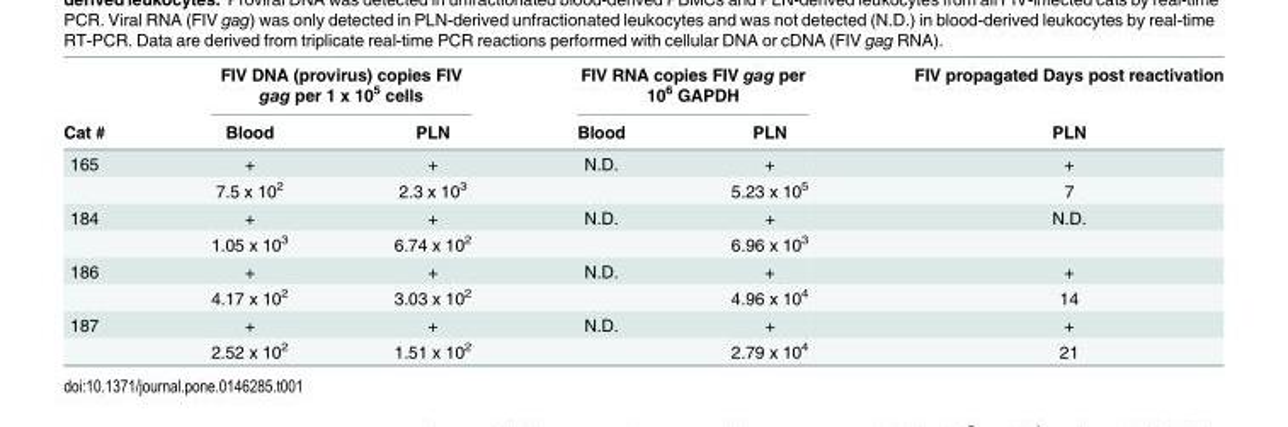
<table><thead><tr><td rowspan="2">Cat #</td><td colspan="2">FIV DNA (provirus) copies FIV gag per 1 x 10<sup>5</sup> cells</td><td colspan="2">FIV RNA copies FIV gag per 10<sup>6</sup> GAPDH</td><td rowspan="2">FIV propagated Days post reactivation PLN</td></tr><tr><td>Blood</td><td>PLN</td><td>Blood</td><td>PLN</td></tr></thead><tbody><tr><td rowspan="2">165</td><td>+</td><td>+</td><td>N.D.</td><td>+</td><td>+</td></tr><tr><td>7.5 x 10<sup>2</sup></td><td>2.3 x 10<sup>3</sup></td><td></td><td>5.23 x 10<sup>5</sup></td><td>7</td></tr><tr><td rowspan="2">184</td><td>+</td><td>+</td><td>N.D.</td><td>+</td><td>N.D.</td></tr><tr><td>1.05 x 10<sup>3</sup></td><td>6.74 x 10<sup>2</sup></td><td></td><td>6.96 x 10<sup>3</sup></td><td></td></tr><tr><td rowspan="2">186</td><td>+</td><td>+</td><td>N.D.</td><td>+</td><td>+</td></tr><tr><td>4.17 x 10<sup>2</sup></td><td>3.03 x 10<sup>2</sup></td><td></td><td>4.96 x 10<sup>4</sup></td><td>14</td></tr><tr><td rowspan="2">187</td><td>+</td><td>+</td><td>N.D.</td><td>+</td><td>+</td></tr><tr><td>2.52 x 10<sup>2</sup></td><td>1.51 x 10<sup>2</sup></td><td></td><td>2.79 x 10<sup>4</sup></td><td>21</td></tr></tbody></table>